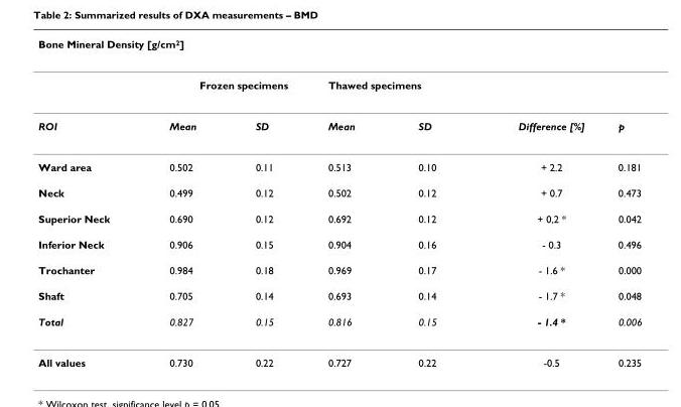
<table><thead><tr><td colspan="7">Bone Mineral Density [g/cm<sup>2</sup>]</td></tr><tr><td rowspan="2">ROI</td><td colspan="2">Frozen specimens</td><td colspan="2">Thawed specimens</td><td rowspan="2">Difference [%]</td><td rowspan="2">p</td></tr><tr><td>Mean</td><td>SD</td><td>Mean</td><td>SD</td></tr></thead><tbody><tr><td>Ward area</td><td>0.502</td><td>0.11</td><td>0.513</td><td>0.10</td><td>+ 2.2</td><td>0.181</td></tr><tr><td>Neck</td><td>0.499</td><td>0.12</td><td>0.502</td><td>0.12</td><td>+ 0.7</td><td>0.473</td></tr><tr><td>Superior Neck</td><td>0.690</td><td>0.12</td><td>0.692</td><td>0.12</td><td>+ 0,2 *</td><td>0.042</td></tr><tr><td>Inferior Neck</td><td>0.906</td><td>0.15</td><td>0.904</td><td>0.16</td><td>- 0.3</td><td>0.496</td></tr><tr><td>Trochanter</td><td>0.984</td><td>0.18</td><td>0.969</td><td>0.17</td><td>- 1.6 *</td><td>0.000</td></tr><tr><td>Shaft</td><td>0.705</td><td>0.14</td><td>0.693</td><td>0.14</td><td>- 1.7 *</td><td>0.048</td></tr><tr><td>Total</td><td>0.827</td><td>0.15</td><td>0.816</td><td>0.15</td><td>- 1.4 *</td><td>0.006</td></tr><tr><td>All values</td><td>0.730</td><td>0.22</td><td>0.727</td><td>0.22</td><td>-0.5</td><td>0.235</td></tr></tbody></table>